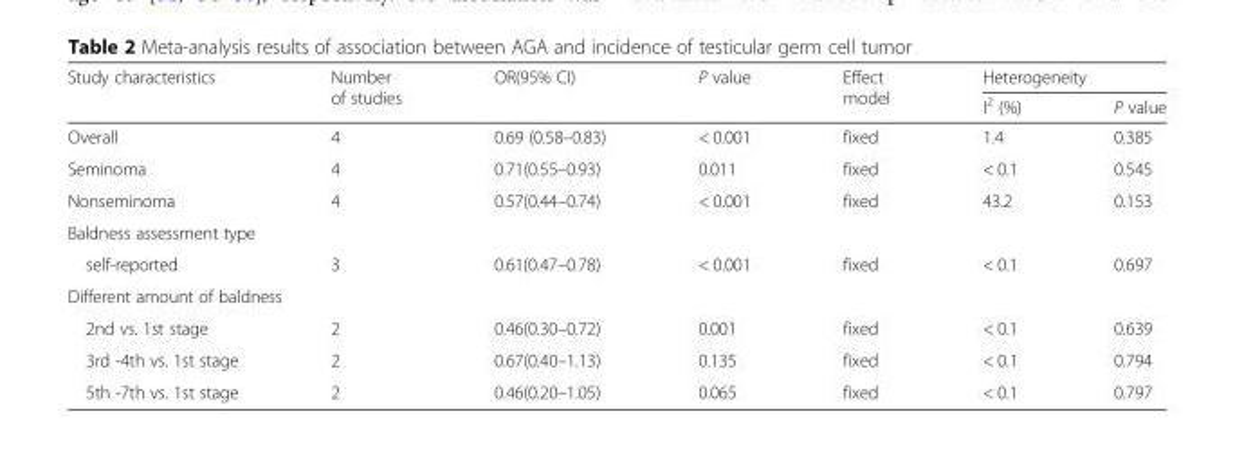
<table><thead><tr><td rowspan="2">Study characteristics</td><td rowspan="2">Number of studies</td><td rowspan="2">OR(95% CI)</td><td rowspan="2">P value</td><td rowspan="2">Effect model</td><td colspan="2">Heterogeneity</td></tr><tr><td>I<sup>2</sup> (%)</td><td>P value</td></tr></thead><tbody><tr><td>Overall</td><td>4</td><td>0.69 (0.58–0.83)</td><td>&lt; 0.001</td><td>fixed</td><td>1.4</td><td>0.385</td></tr><tr><td>Seminoma</td><td>4</td><td>0.71(0.55–0.93)</td><td>0.011</td><td>fixed</td><td>&lt; 0.1</td><td>0.545</td></tr><tr><td>Nonseminoma</td><td>4</td><td>0.57(0.44–0.74)</td><td>&lt; 0.001</td><td>fixed</td><td>43.2</td><td>0.153</td></tr><tr><td colspan="7">Baldness assessment type</td></tr><tr><td>self-reported</td><td>3</td><td>0.61(0.47–0.78)</td><td>&lt; 0.001</td><td>fixed</td><td>&lt; 0.1</td><td>0.697</td></tr><tr><td colspan="7">Different amount of baldness</td></tr><tr><td>2nd vs. 1st stage</td><td>2</td><td>0.46(0.30–0.72)</td><td>0.001</td><td>fixed</td><td>&lt; 0.1</td><td>0.639</td></tr><tr><td>3rd -4th vs. 1st stage</td><td>2</td><td>0.67(0.40–1.13)</td><td>0.135</td><td>fixed</td><td>&lt; 0.1</td><td>0.794</td></tr><tr><td>5th -7th vs. 1st stage</td><td>2</td><td>0.46(0.20–1.05)</td><td>0.065</td><td>fixed</td><td>&lt; 0.1</td><td>0.797</td></tr></tbody></table>